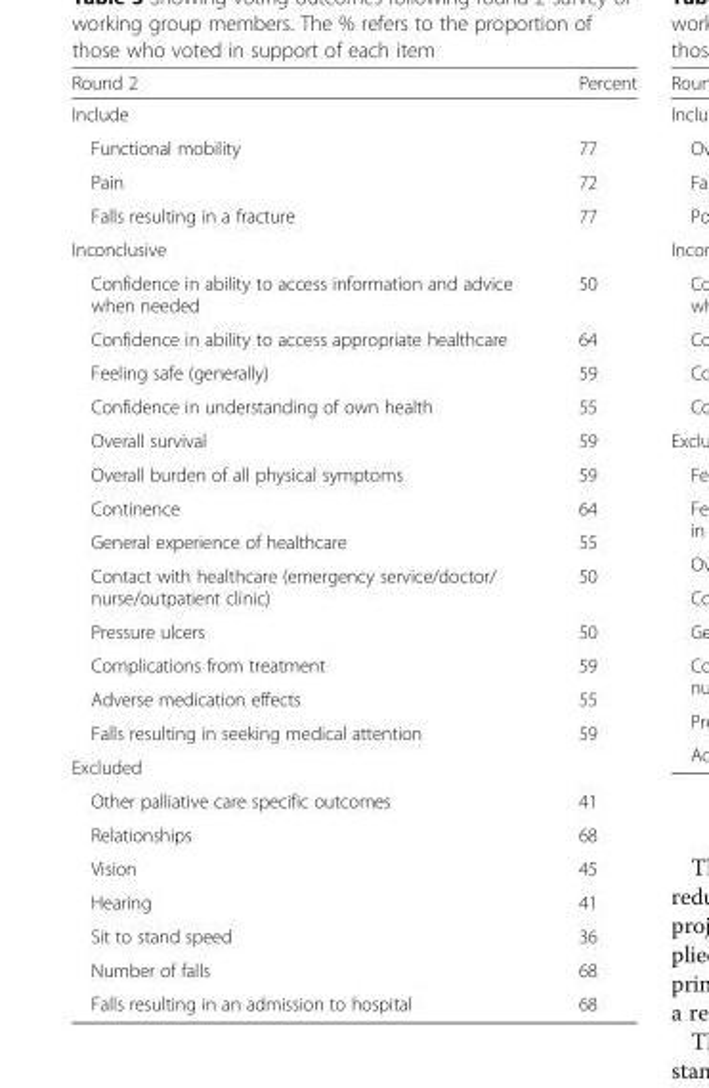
<table><thead><tr><td>Round 2</td><td>Percent</td></tr></thead><tbody><tr><td colspan="2">Include</td></tr><tr><td>Functional mobility</td><td>77</td></tr><tr><td>Pain</td><td>72</td></tr><tr><td>Falls resulting in a fracture</td><td>77</td></tr><tr><td colspan="2">Inconclusive</td></tr><tr><td>Confidence in ability to access information and advice when needed</td><td>50</td></tr><tr><td>Confidence in ability to access appropriate healthcare</td><td>64</td></tr><tr><td>Feeling safe (generally)</td><td>59</td></tr><tr><td>Confidence in understanding of own health</td><td>55</td></tr><tr><td>Overall survival</td><td>59</td></tr><tr><td>Overall burden of all physical symptoms</td><td>59</td></tr><tr><td>Continence</td><td>64</td></tr><tr><td>General experience of healthcare</td><td>55</td></tr><tr><td>Contact with healthcare (emergency service/doctor/ nurse/outpatient clinic)</td><td>50</td></tr><tr><td>Pressure ulcers</td><td>50</td></tr><tr><td>Complications from treatment</td><td>59</td></tr><tr><td>Adverse medication effects</td><td>55</td></tr><tr><td>Falls resulting in seeking medical attention</td><td>59</td></tr><tr><td colspan="2">Excluded</td></tr><tr><td>Other palliative care specific outcomes</td><td>41</td></tr><tr><td>Relationships</td><td>68</td></tr><tr><td>Vision</td><td>45</td></tr><tr><td>Hearing</td><td>41</td></tr><tr><td>Sit to stand speed</td><td>36</td></tr><tr><td>Number of falls</td><td>68</td></tr><tr><td>Falls resulting in an admission to hospital</td><td>68</td></tr></tbody></table>